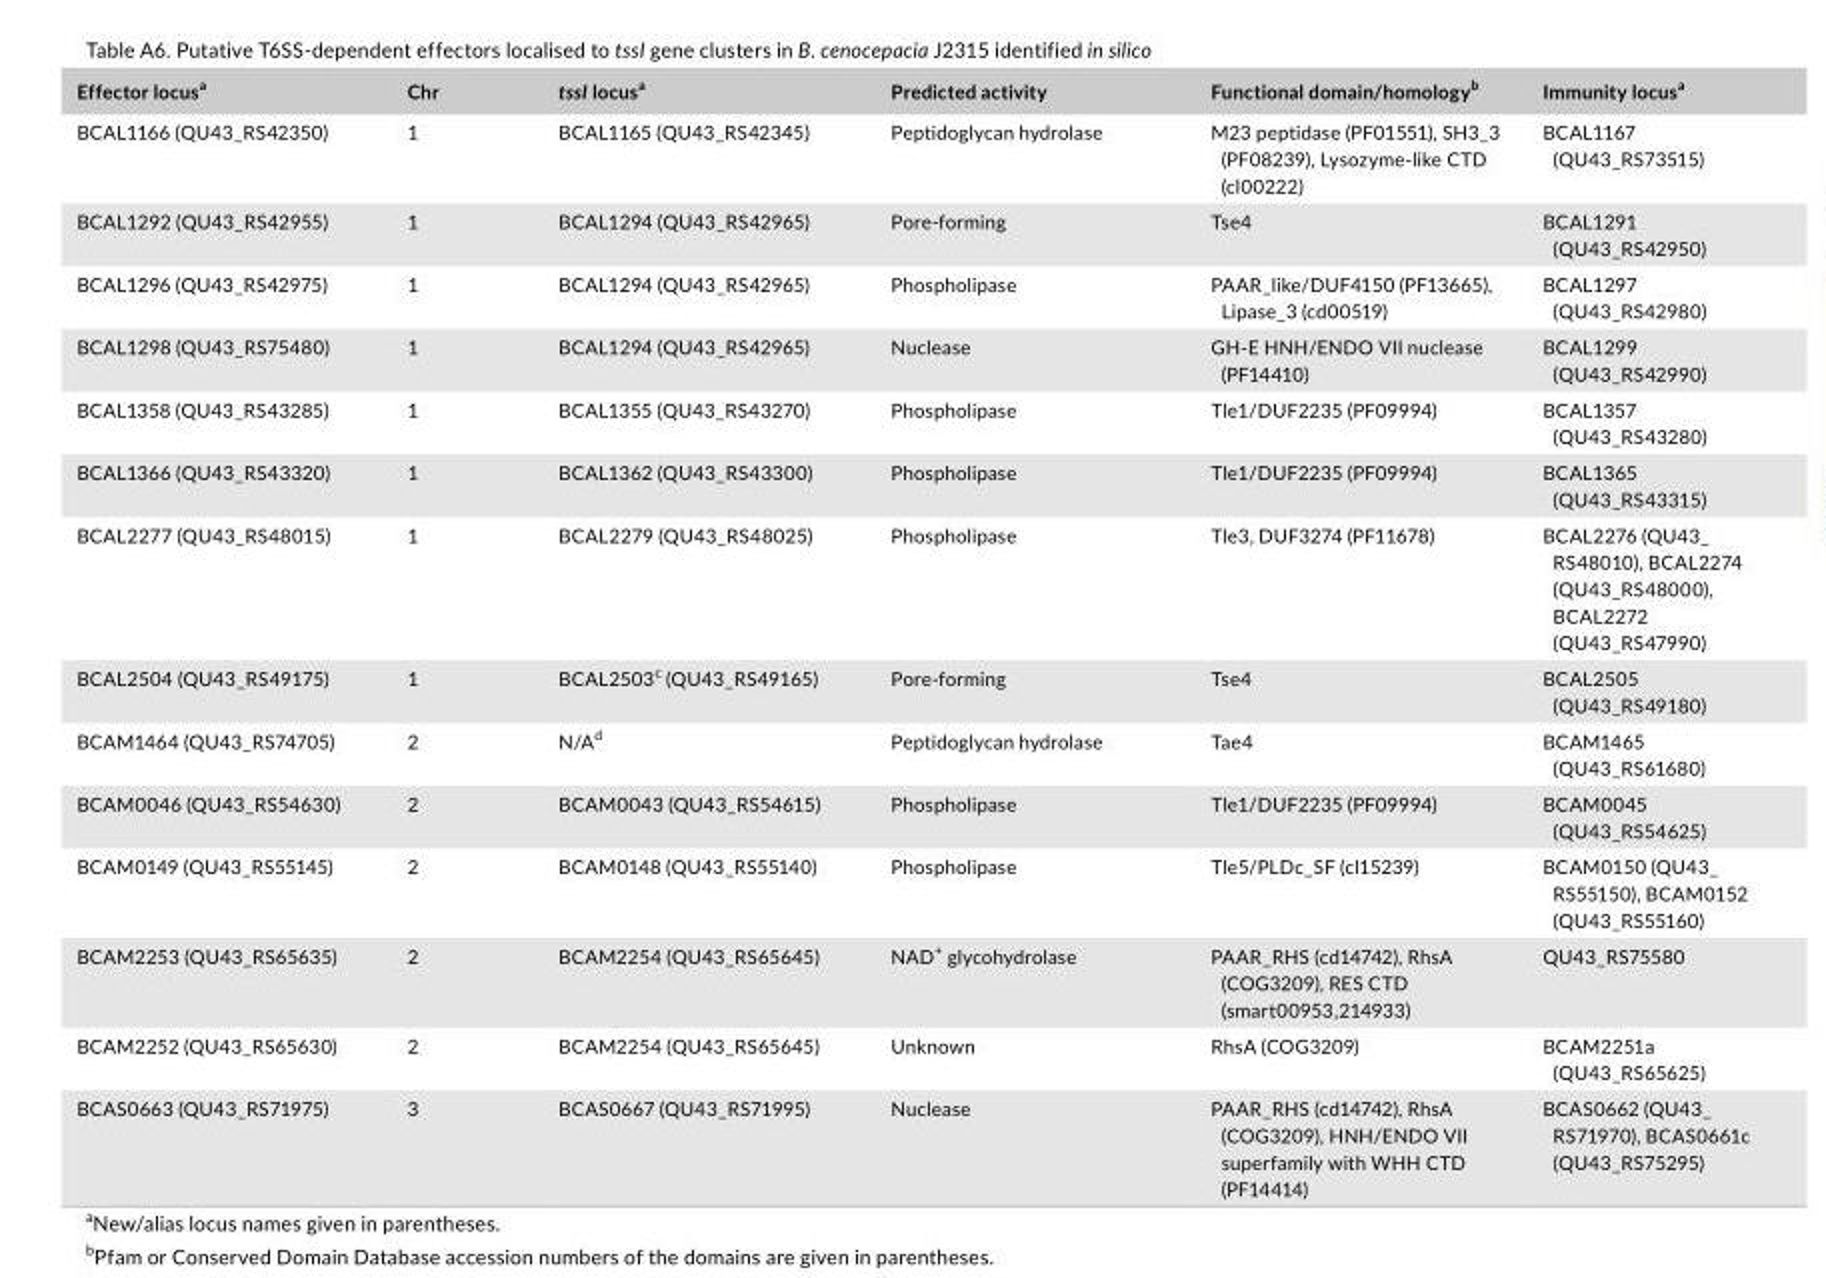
<table><thead><tr><td>Effector locus<sup>a</sup></td><td>Chr</td><td>tssI locus<sup>a</sup></td><td>Predicted activity</td><td>Functional domain/homology<sup>b</sup></td><td>Immunity locus<sup>a</sup></td></tr></thead><tbody><tr><td>BCAL1166 (QU43_RS42350)</td><td>1</td><td>BCAL1165 (QU43_RS42345)</td><td>Peptidoglycan hydrolase</td><td>M23 peptidase (PF01551), SH3_3 (PF08239), Lysozyme‐like CTD (cl00222)</td><td>BCAL1167 (QU43_RS73515)</td></tr><tr><td>BCAL1292 (QU43_RS42955)</td><td>1</td><td>BCAL1294 (QU43_RS42965)</td><td>Pore‐forming</td><td>Tse4</td><td>BCAL1291 (QU43_RS42950)</td></tr><tr><td>BCAL1296 (QU43_RS42975)</td><td>1</td><td>BCAL1294 (QU43_RS42965)</td><td>Phospholipase</td><td>PAAR_like/DUF4150 (PF13665), Lipase_3 (cd00519)</td><td>BCAL1297 (QU43_RS42980)</td></tr><tr><td>BCAL1298 (QU43_RS75480)</td><td>1</td><td>BCAL1294 (QU43_RS42965)</td><td>Nuclease</td><td>GH‐E HNH/ENDO VII nuclease (PF14410)</td><td>BCAL1299 (QU43_RS42990)</td></tr><tr><td>BCAL1358 (QU43_RS43285)</td><td>1</td><td>BCAL1355 (QU43_RS43270)</td><td>Phospholipase</td><td>Tle1/DUF2235 (PF09994)</td><td>BCAL1357 (QU43_RS43280)</td></tr><tr><td>BCAL1366 (QU43_RS43320)</td><td>1</td><td>BCAL1362 (QU43_RS43300)</td><td>Phospholipase</td><td>Tle1/DUF2235 (PF09994)</td><td>BCAL1365 (QU43_RS43315)</td></tr><tr><td>BCAL2277 (QU43_RS48015)</td><td>1</td><td>BCAL2279 (QU43_RS48025)</td><td>Phospholipase</td><td>Tle3, DUF3274 (PF11678)</td><td>BCAL2276 (QU43_ RS48010), BCAL2274 (QU43_RS48000), BCAL2272 (QU43_RS47990)</td></tr><tr><td>BCAL2504 (QU43_RS49175)</td><td>1</td><td>BCAL2503<sup>c</sup> (QU43_RS49165)</td><td>Pore‐forming</td><td>Tse4</td><td>BCAL2505 (QU43_RS49180)</td></tr><tr><td>BCAM1464 (QU43_RS74705)</td><td>2</td><td>N/A<sup>d</sup></td><td>Peptidoglycan hydrolase</td><td>Tae4</td><td>BCAM1465 (QU43_RS61680)</td></tr><tr><td>BCAM0046 (QU43_RS54630)</td><td>2</td><td>BCAM0043 (QU43_RS54615)</td><td>Phospholipase</td><td>Tle1/DUF2235 (PF09994)</td><td>BCAM0045 (QU43_RS54625)</td></tr><tr><td>BCAM0149 (QU43_RS55145)</td><td>2</td><td>BCAM0148 (QU43_RS55140)</td><td>Phospholipase</td><td>Tle5/PLDc_SF (cl15239)</td><td>BCAM0150 (QU43_ RS55150), BCAM0152 (QU43_RS55160)</td></tr><tr><td>BCAM2253 (QU43_RS65635)</td><td>2</td><td>BCAM2254 (QU43_RS65645)</td><td>NAD<sup>+</sup> glycohydrolase</td><td>PAAR_RHS (cd14742), RhsA (COG3209), RES CTD (smart00953,214933)</td><td>QU43_RS75580</td></tr><tr><td>BCAM2252 (QU43_RS65630)</td><td>2</td><td>BCAM2254 (QU43_RS65645)</td><td>Unknown</td><td>RhsA (COG3209)</td><td>BCAM2251a (QU43_RS65625)</td></tr><tr><td>BCAS0663 (QU43_RS71975)</td><td>3</td><td>BCAS0667 (QU43_RS71995)</td><td>Nuclease</td><td>PAAR_RHS (cd14742), RhsA (COG3209), HNH/ENDO VII superfamily with WHH CTD (PF14414)</td><td>BCAS0662 (QU43_ RS71970), BCAS0661c (QU43_RS75295)</td></tr></tbody></table>